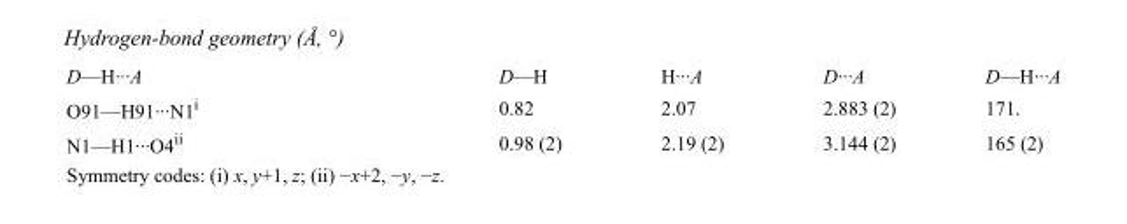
<table><tbody><tr><td>D—H···A</td><td>D—H</td><td>H···A</td><td>D···A</td><td>D—H···A</td></tr><tr><td>O91—H91···N1<sup>i</sup></td><td>0.82</td><td>2.07</td><td>2.883 (2)</td><td>171.</td></tr><tr><td>N1—H1···O4<sup>ii</sup></td><td>0.98 (2)</td><td>2.19 (2)</td><td>3.144 (2)</td><td>165 (2)</td></tr></tbody></table>